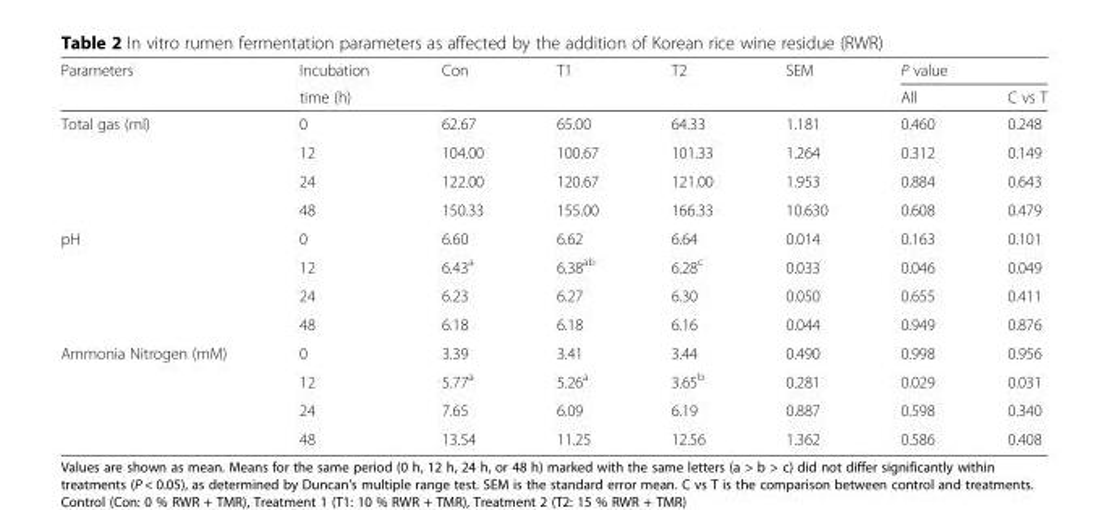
<table><thead><tr><td rowspan="2">Parameters</td><td rowspan="2">Incubation time (h)</td><td rowspan="2">Con</td><td rowspan="2">T1</td><td rowspan="2">T2</td><td rowspan="2">SEM</td><td colspan="2">P value</td></tr><tr><td>All</td><td>C vs T</td></tr></thead><tbody><tr><td rowspan="4">Total gas (ml)</td><td>0</td><td>62.67</td><td>65.00</td><td>64.33</td><td>1.181</td><td>0.460</td><td>0.248</td></tr><tr><td>12</td><td>104.00</td><td>100.67</td><td>101.33</td><td>1.264</td><td>0.312</td><td>0.149</td></tr><tr><td>24</td><td>122.00</td><td>120.67</td><td>121.00</td><td>1.953</td><td>0.884</td><td>0.643</td></tr><tr><td>48</td><td>150.33</td><td>155.00</td><td>166.33</td><td>10.630</td><td>0.608</td><td>0.479</td></tr><tr><td rowspan="4">pH</td><td>0</td><td>6.60</td><td>6.62</td><td>6.64</td><td>0.014</td><td>0.163</td><td>0.101</td></tr><tr><td>12</td><td>6.43<sup>a</sup></td><td>6.38<sup>ab</sup></td><td>6.28<sup>c</sup></td><td>0.033</td><td>0.046</td><td>0.049</td></tr><tr><td>24</td><td>6.23</td><td>6.27</td><td>6.30</td><td>0.050</td><td>0.655</td><td>0.411</td></tr><tr><td>48</td><td>6.18</td><td>6.18</td><td>6.16</td><td>0.044</td><td>0.949</td><td>0.876</td></tr><tr><td rowspan="4">Ammonia Nitrogen (mM)</td><td>0</td><td>3.39</td><td>3.41</td><td>3.44</td><td>0.490</td><td>0.998</td><td>0.956</td></tr><tr><td>12</td><td>5.77<sup>a</sup></td><td>5.26<sup>a</sup></td><td>3.65<sup>b</sup></td><td>0.281</td><td>0.029</td><td>0.031</td></tr><tr><td>24</td><td>7.65</td><td>6.09</td><td>6.19</td><td>0.887</td><td>0.598</td><td>0.340</td></tr><tr><td>48</td><td>13.54</td><td>11.25</td><td>12.56</td><td>1.362</td><td>0.586</td><td>0.408</td></tr></tbody></table>